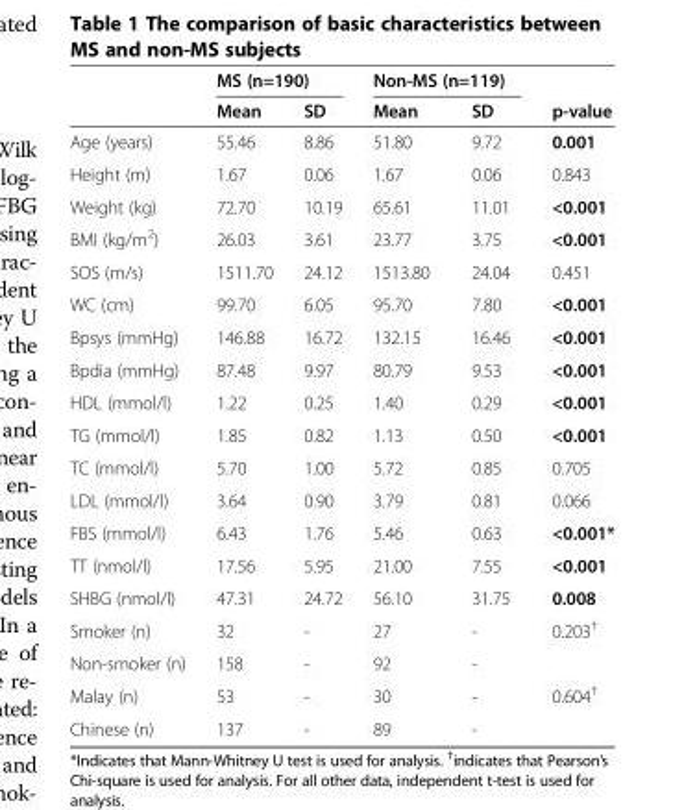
<table><thead><tr><td rowspan="2"></td><td colspan="2">MS (n=190)</td><td colspan="2">Non-MS (n=119)</td><td rowspan="2">p-value</td></tr><tr><td>Mean</td><td>SD</td><td>Mean</td><td>SD</td></tr></thead><tbody><tr><td>Age (years)</td><td>55.46</td><td>8.86</td><td>51.80</td><td>9.72</td><td>0.001</td></tr><tr><td>Height (m)</td><td>1.67</td><td>0.06</td><td>1.67</td><td>0.06</td><td>0.843</td></tr><tr><td>Weight (kg)</td><td>72.70</td><td>10.19</td><td>65.61</td><td>11.01</td><td>&lt;0.001</td></tr><tr><td>BMI (kg/m<sup>2</sup>)</td><td>26.03</td><td>3.61</td><td>23.77</td><td>3.75</td><td>&lt;0.001</td></tr><tr><td>SOS (m/s)</td><td>1511.70</td><td>24.12</td><td>1513.80</td><td>24.04</td><td>0.451</td></tr><tr><td>WC (cm)</td><td>99.70</td><td>6.05</td><td>95.70</td><td>7.80</td><td>&lt;0.001</td></tr><tr><td>Bpsys (mmHg)</td><td>146.88</td><td>16.72</td><td>132.15</td><td>16.46</td><td>&lt;0.001</td></tr><tr><td>Bpdia (mmHg)</td><td>87.48</td><td>9.97</td><td>80.79</td><td>9.53</td><td>&lt;0.001</td></tr><tr><td>HDL (mmol/l)</td><td>1.22</td><td>0.25</td><td>1.40</td><td>0.29</td><td>&lt;0.001</td></tr><tr><td>TG (mmol/l)</td><td>1.85</td><td>0.82</td><td>1.13</td><td>0.50</td><td>&lt;0.001</td></tr><tr><td>TC (mmol/l)</td><td>5.70</td><td>1.00</td><td>5.72</td><td>0.85</td><td>0.705</td></tr><tr><td>LDL (mmol/l)</td><td>3.64</td><td>0.90</td><td>3.79</td><td>0.81</td><td>0.066</td></tr><tr><td>FBS (mmol/l)</td><td>6.43</td><td>1.76</td><td>5.46</td><td>0.63</td><td>&lt;0.001*</td></tr><tr><td>TT (nmol/l)</td><td>17.56</td><td>5.95</td><td>21.00</td><td>7.55</td><td>&lt;0.001</td></tr><tr><td>SHBG (nmol/l)</td><td>47.31</td><td>24.72</td><td>56.10</td><td>31.75</td><td>0.008</td></tr><tr><td>Smoker (n)</td><td>32</td><td>-</td><td>27</td><td>-</td><td rowspan="2">0.203<sup>†</sup></td></tr><tr><td>Non-smoker (n)</td><td>158</td><td>-</td><td>92</td><td>-</td></tr><tr><td>Malay (n)</td><td>53</td><td>-</td><td>30</td><td>-</td><td rowspan="2">0.604<sup>†</sup></td></tr><tr><td>Chinese (n)</td><td>137</td><td>-</td><td>89</td><td>-</td></tr></tbody></table>